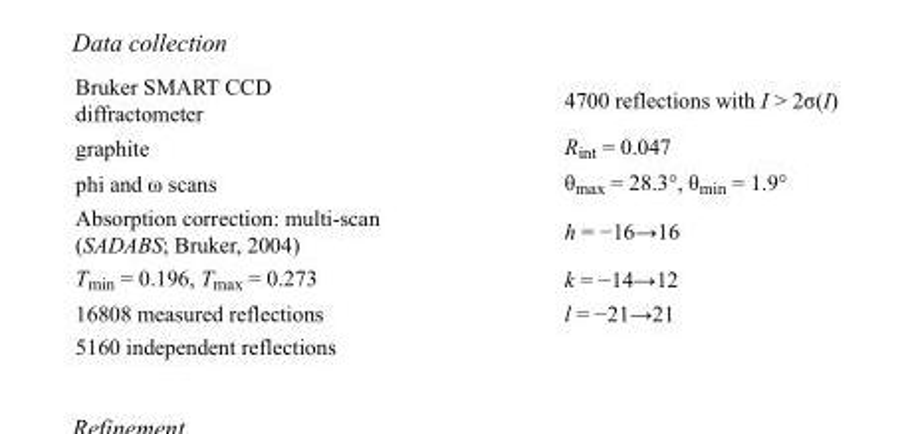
<table><tbody><tr><td>Bruker SMART CCD diffractometer</td><td>4700 reflections with I &gt; 2σ(I)</td></tr><tr><td>graphite</td><td>R<sub>int</sub> = 0.047</td></tr><tr><td>phi and ω scans</td><td>θ<sub>max</sub> = 28.3°, θ<sub>min</sub> = 1.9°</td></tr><tr><td>Absorption correction: multi-scan (SADABS; Bruker, 2004)</td><td>h = −16→16</td></tr><tr><td>T<sub>min</sub> = 0.196, T<sub>max</sub> = 0.273</td><td>k = −14→12</td></tr><tr><td>16808 measured reflections</td><td>l = −21→21</td></tr><tr><td>5160 independent reflections</td><td></td></tr></tbody></table>